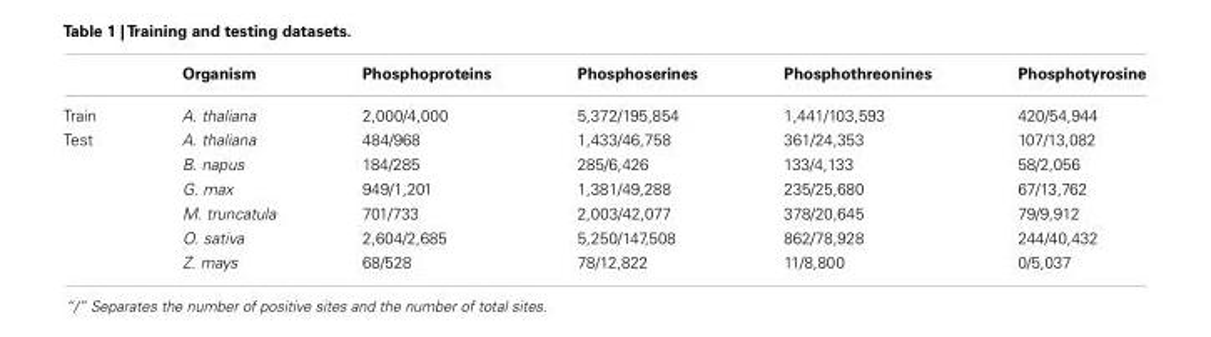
<table><thead><tr><td></td><td>Organism</td><td>Phosphoproteins</td><td>Phosphoserines</td><td>Phosphothreonines</td><td>Phosphotyrosine</td></tr></thead><tbody><tr><td>Train</td><td>A. thaliana</td><td>2,000/4,000</td><td>5,372/195,854</td><td>1,441/103,593</td><td>420/54,944</td></tr><tr><td rowspan="6">Test</td><td>A. thaliana</td><td>484/968</td><td>1,433/46,758</td><td>361/24,353</td><td>107/13,082</td></tr><tr><td>B. napus</td><td>184/285</td><td>285/6,426</td><td>133/4,133</td><td>58/2,056</td></tr><tr><td>G. max</td><td>949/1,201</td><td>1,381/49,288</td><td>235/25,680</td><td>67/13,762</td></tr><tr><td>M. truncatula</td><td>701/733</td><td>2,003/42,077</td><td>378/20,645</td><td>79/9,912</td></tr><tr><td>O. sativa</td><td>2,604/2,685</td><td>5,250/147,508</td><td>862/78,928</td><td>244/40,432</td></tr><tr><td>Z. mays</td><td>68/528</td><td>78/12,822</td><td>11/8,800</td><td>0/5,037</td></tr></tbody></table>